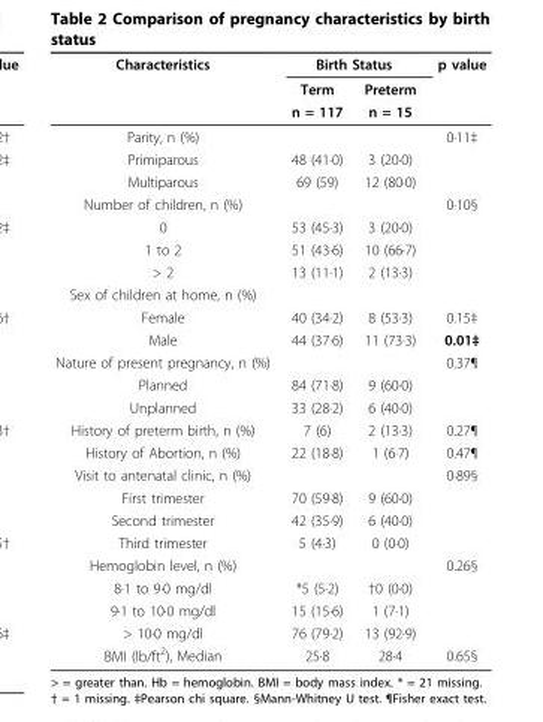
<table><thead><tr><td rowspan="3">Characteristics</td><td colspan="2">Birth Status</td><td rowspan="3">p value</td></tr><tr><td rowspan="2">Term n = 117</td><td rowspan="2">Preterm n = 15</td></tr><tr></tr></thead><tbody><tr><td>Parity, n (%)</td><td></td><td></td><td>0·11‡</td></tr><tr><td>Primiparous</td><td>48 (41·0)</td><td>3 (20·0)</td><td></td></tr><tr><td>Multiparous</td><td>69 (59)</td><td>12 (80·0)</td><td></td></tr><tr><td>Number of children, n (%)</td><td></td><td></td><td>0·10§</td></tr><tr><td>0</td><td>53 (45·3)</td><td>3 (20·0)</td><td></td></tr><tr><td>1 to 2</td><td>51 (43·6)</td><td>10 (66·7)</td><td></td></tr><tr><td>&gt; 2</td><td>13 (11·1)</td><td>2 (13·3)</td><td></td></tr><tr><td colspan="4">Sex of children at home, n (%)</td></tr><tr><td>Female</td><td>40 (34·2)</td><td>8 (53·3)</td><td>0.15‡</td></tr><tr><td>Male</td><td>44 (37·6)</td><td>11 (73·3)</td><td>0.01‡</td></tr><tr><td>Nature of present pregnancy, n (%)</td><td></td><td></td><td>0.37¶</td></tr><tr><td>Planned</td><td>84 (71·8)</td><td>9 (60·0)</td><td></td></tr><tr><td>Unplanned</td><td>33 (28·2)</td><td>6 (40·0)</td><td></td></tr><tr><td>History of preterm birth, n (%)</td><td>7 (6)</td><td>2 (13·3)</td><td>0.27¶</td></tr><tr><td>History of Abortion, n (%)</td><td>22 (18·8)</td><td>1 (6·7)</td><td>0.47¶</td></tr><tr><td>Visit to antenatal clinic, n (%)</td><td></td><td></td><td>0·89§</td></tr><tr><td>First trimester</td><td>70 (59·8)</td><td>9 (60·0)</td><td></td></tr><tr><td>Second trimester</td><td>42 (35·9)</td><td>6 (40·0)</td><td></td></tr><tr><td>Third trimester</td><td>5 (4·3)</td><td>0 (0·0)</td><td></td></tr><tr><td>Hemoglobin level, n (%)</td><td></td><td></td><td>0.26§</td></tr><tr><td>8·1 to 9·0 mg/dl</td><td>*5 (5·2)</td><td>†0 (0·0)</td><td></td></tr><tr><td>9·1 to 10·0 mg/dl</td><td>15 (15·6)</td><td>1 (7·1)</td><td></td></tr><tr><td>&gt; 10·0 mg/dl</td><td>76 (79·2)</td><td>13 (92·9)</td><td></td></tr><tr><td>BMI (lb/ft<sup>2</sup>), Median</td><td>25·8</td><td>28·4</td><td>0.65§</td></tr></tbody></table>